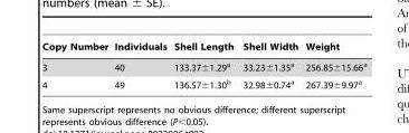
<table><thead><tr><td>Copy Number</td><td>Individuals</td><td>Shell Length</td><td>Shell Width</td><td>Weight</td></tr></thead><tbody><tr><td>3</td><td>40</td><td>133.37±1.29<sup>a</sup></td><td>33.23±1.35<sup>a</sup></td><td>256.85±15.66<sup>a</sup></td></tr><tr><td>4</td><td>49</td><td>136.57±1.30<sup>b</sup></td><td>32.98±0.74<sup>a</sup></td><td>267.39±9.97<sup>a</sup></td></tr></tbody></table>